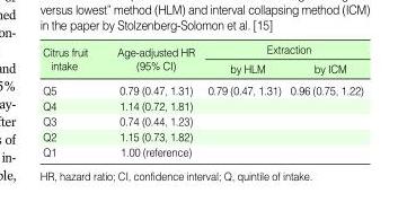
<table><thead><tr><td rowspan="2">Citrus fruit intake</td><td rowspan="2">Age-adjusted HR (95% CI)</td><td colspan="2">Extraction</td></tr><tr><td>by HLM</td><td>by ICM</td></tr></thead><tbody><tr><td>Q5</td><td>0.79 (0.47, 1.31)</td><td>0.79 (0.47, 1.31)</td><td>0.96 (0.75, 1.22)</td></tr><tr><td>Q4</td><td>1.14 (0.72, 1.81)</td><td></td><td></td></tr><tr><td>Q3</td><td>0.74 (0.44, 1.23)</td><td></td><td></td></tr><tr><td>Q2</td><td>1.15 (0.73, 1.82)</td><td></td><td></td></tr><tr><td>Q1</td><td>1.00 (reference)</td><td></td><td></td></tr></tbody></table>